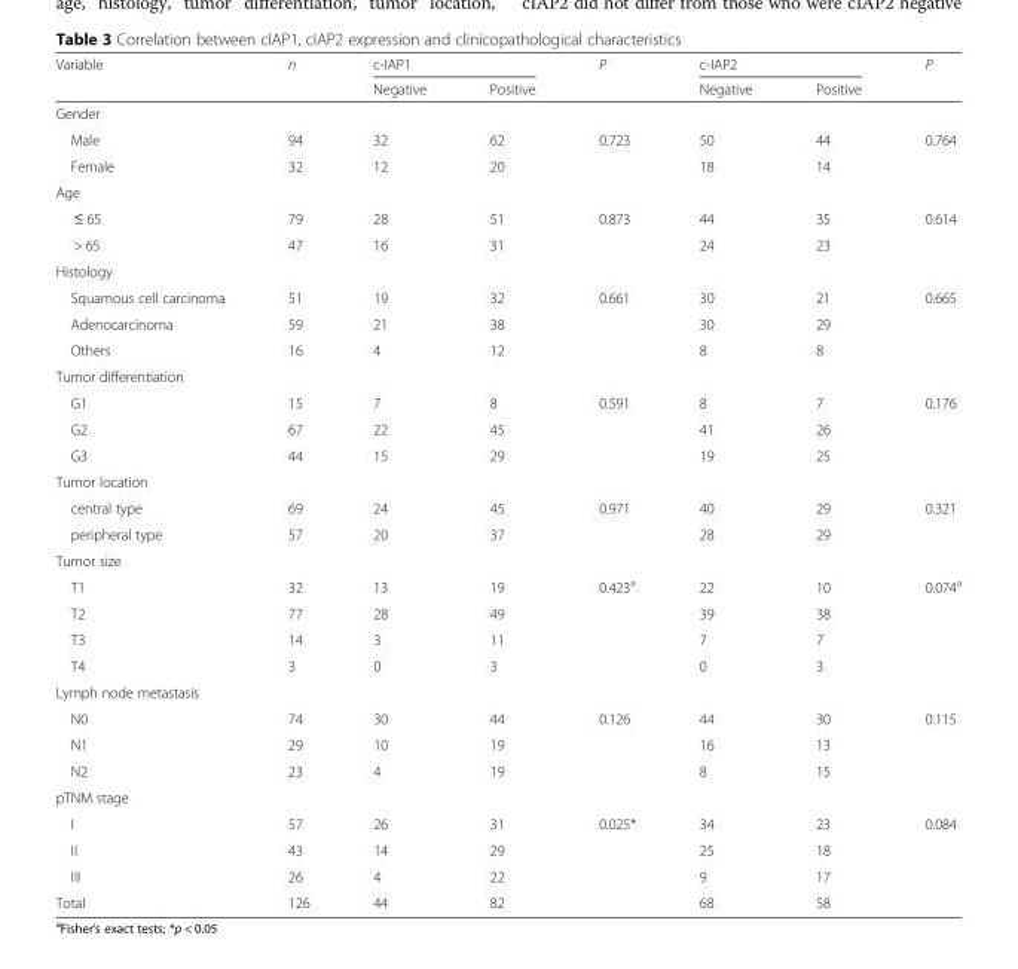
<table><thead><tr><td rowspan="2">Variable</td><td rowspan="2">n</td><td colspan="2">c-IAP1</td><td rowspan="2">P</td><td colspan="2">c-IAP2</td><td rowspan="2">P</td></tr><tr><td>Negative</td><td>Positive</td><td>Negative</td><td>Positive</td></tr></thead><tbody><tr><td colspan="8">Gender</td></tr><tr><td>Male</td><td>94</td><td>32</td><td>62</td><td>0.723</td><td>50</td><td>44</td><td>0.764</td></tr><tr><td>Female</td><td>32</td><td>12</td><td>20</td><td></td><td>18</td><td>14</td><td></td></tr><tr><td colspan="8">Age</td></tr><tr><td>≤ 65</td><td>79</td><td>28</td><td>51</td><td>0.873</td><td>44</td><td>35</td><td>0.614</td></tr><tr><td>&gt; 65</td><td>47</td><td>16</td><td>31</td><td></td><td>24</td><td>23</td><td></td></tr><tr><td colspan="8">Histology</td></tr><tr><td>Squamous cell carcinoma</td><td>51</td><td>19</td><td>32</td><td>0.661</td><td>30</td><td>21</td><td>0.665</td></tr><tr><td>Adenocarcinoma</td><td>59</td><td>21</td><td>38</td><td></td><td>30</td><td>29</td><td></td></tr><tr><td>Others</td><td>16</td><td>4</td><td>12</td><td></td><td>8</td><td>8</td><td></td></tr><tr><td colspan="8">Tumor differentiation</td></tr><tr><td>G1</td><td>15</td><td>7</td><td>8</td><td>0.591</td><td>8</td><td>7</td><td>0.176</td></tr><tr><td>G2</td><td>67</td><td>22</td><td>45</td><td></td><td>41</td><td>26</td><td></td></tr><tr><td>G3</td><td>44</td><td>15</td><td>29</td><td></td><td>19</td><td>25</td><td></td></tr><tr><td colspan="8">Tumor location</td></tr><tr><td>central type</td><td>69</td><td>24</td><td>45</td><td>0.971</td><td>40</td><td>29</td><td>0.321</td></tr><tr><td>peripheral type</td><td>57</td><td>20</td><td>37</td><td></td><td>28</td><td>29</td><td></td></tr><tr><td colspan="8">Tumor size</td></tr><tr><td>T1</td><td>32</td><td>13</td><td>19</td><td>0.423<sup>a</sup></td><td>22</td><td>10</td><td>0.074<sup>a</sup></td></tr><tr><td>T2</td><td>77</td><td>28</td><td>49</td><td></td><td>39</td><td>38</td><td></td></tr><tr><td>T3</td><td>14</td><td>3</td><td>11</td><td></td><td>7</td><td>7</td><td></td></tr><tr><td>T4</td><td>3</td><td>0</td><td>3</td><td></td><td>0</td><td>3</td><td></td></tr><tr><td colspan="8">Lymph node metastasis</td></tr><tr><td>N0</td><td>74</td><td>30</td><td>44</td><td>0.126</td><td>44</td><td>30</td><td>0.115</td></tr><tr><td>N1</td><td>29</td><td>10</td><td>19</td><td></td><td>16</td><td>13</td><td></td></tr><tr><td>N2</td><td>23</td><td>4</td><td>19</td><td></td><td>8</td><td>15</td><td></td></tr><tr><td colspan="8">pTNM stage</td></tr><tr><td>I</td><td>57</td><td>26</td><td>31</td><td>0.025*</td><td>34</td><td>23</td><td>0.084</td></tr><tr><td>II</td><td>43</td><td>14</td><td>29</td><td></td><td>25</td><td>18</td><td></td></tr><tr><td>III</td><td>26</td><td>4</td><td>22</td><td></td><td>9</td><td>17</td><td></td></tr><tr><td>Total</td><td>126</td><td>44</td><td>82</td><td></td><td>68</td><td>58</td><td></td></tr></tbody></table>